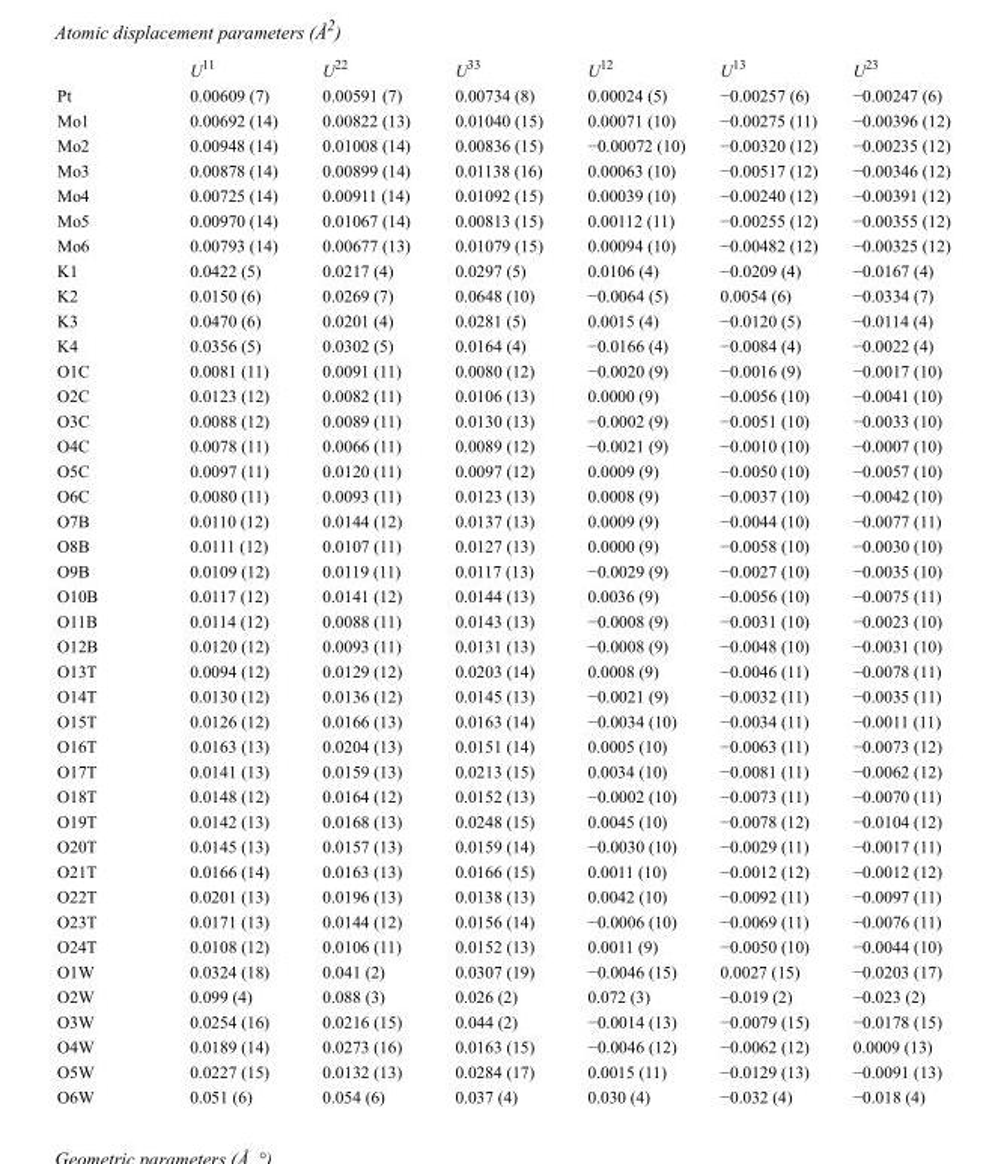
<table><thead><tr><td></td><td>U<sup>11</sup></td><td>U<sup>22</sup></td><td>U<sup>33</sup></td><td>U<sup>12</sup></td><td>U<sup>13</sup></td><td>U<sup>23</sup></td></tr></thead><tbody><tr><td>Pt</td><td>0.00609 (7)</td><td>0.00591 (7)</td><td>0.00734 (8)</td><td>0.00024 (5)</td><td>−0.00257 (6)</td><td>−0.00247 (6)</td></tr><tr><td>Mo1</td><td>0.00692 (14)</td><td>0.00822 (13)</td><td>0.01040 (15)</td><td>0.00071 (10)</td><td>−0.00275 (11)</td><td>−0.00396 (12)</td></tr><tr><td>Mo2</td><td>0.00948 (14)</td><td>0.01008 (14)</td><td>0.00836 (15)</td><td>−0.00072 (10)</td><td>−0.00320 (12)</td><td>−0.00235 (12)</td></tr><tr><td>Mo3</td><td>0.00878 (14)</td><td>0.00899 (14)</td><td>0.01138 (16)</td><td>0.00063 (10)</td><td>−0.00517 (12)</td><td>−0.00346 (12)</td></tr><tr><td>Mo4</td><td>0.00725 (14)</td><td>0.00911 (14)</td><td>0.01092 (15)</td><td>0.00039 (10)</td><td>−0.00240 (12)</td><td>−0.00391 (12)</td></tr><tr><td>Mo5</td><td>0.00970 (14)</td><td>0.01067 (14)</td><td>0.00813 (15)</td><td>0.00112 (11)</td><td>−0.00255 (12)</td><td>−0.00355 (12)</td></tr><tr><td>Mo6</td><td>0.00793 (14)</td><td>0.00677 (13)</td><td>0.01079 (15)</td><td>0.00094 (10)</td><td>−0.00482 (12)</td><td>−0.00325 (12)</td></tr><tr><td>K1</td><td>0.0422 (5)</td><td>0.0217 (4)</td><td>0.0297 (5)</td><td>0.0106 (4)</td><td>−0.0209 (4)</td><td>−0.0167 (4)</td></tr><tr><td>K2</td><td>0.0150 (6)</td><td>0.0269 (7)</td><td>0.0648 (10)</td><td>−0.0064 (5)</td><td>0.0054 (6)</td><td>−0.0334 (7)</td></tr><tr><td>K3</td><td>0.0470 (6)</td><td>0.0201 (4)</td><td>0.0281 (5)</td><td>0.0015 (4)</td><td>−0.0120 (5)</td><td>−0.0114 (4)</td></tr><tr><td>K4</td><td>0.0356 (5)</td><td>0.0302 (5)</td><td>0.0164 (4)</td><td>−0.0166 (4)</td><td>−0.0084 (4)</td><td>−0.0022 (4)</td></tr><tr><td>O1C</td><td>0.0081 (11)</td><td>0.0091 (11)</td><td>0.0080 (12)</td><td>−0.0020 (9)</td><td>−0.0016 (9)</td><td>−0.0017 (10)</td></tr><tr><td>O2C</td><td>0.0123 (12)</td><td>0.0082 (11)</td><td>0.0106 (13)</td><td>0.0000 (9)</td><td>−0.0056 (10)</td><td>−0.0041 (10)</td></tr><tr><td>O3C</td><td>0.0088 (12)</td><td>0.0089 (11)</td><td>0.0130 (13)</td><td>−0.0002 (9)</td><td>−0.0051 (10)</td><td>−0.0033 (10)</td></tr><tr><td>O4C</td><td>0.0078 (11)</td><td>0.0066 (11)</td><td>0.0089 (12)</td><td>−0.0021 (9)</td><td>−0.0010 (10)</td><td>−0.0007 (10)</td></tr><tr><td>O5C</td><td>0.0097 (11)</td><td>0.0120 (11)</td><td>0.0097 (12)</td><td>0.0009 (9)</td><td>−0.0050 (10)</td><td>−0.0057 (10)</td></tr><tr><td>O6C</td><td>0.0080 (11)</td><td>0.0093 (11)</td><td>0.0123 (13)</td><td>0.0008 (9)</td><td>−0.0037 (10)</td><td>−0.0042 (10)</td></tr><tr><td>O7B</td><td>0.0110 (12)</td><td>0.0144 (12)</td><td>0.0137 (13)</td><td>0.0009 (9)</td><td>−0.0044 (10)</td><td>−0.0077 (11)</td></tr><tr><td>O8B</td><td>0.0111 (12)</td><td>0.0107 (11)</td><td>0.0127 (13)</td><td>0.0000 (9)</td><td>−0.0058 (10)</td><td>−0.0030 (10)</td></tr><tr><td>O9B</td><td>0.0109 (12)</td><td>0.0119 (11)</td><td>0.0117 (13)</td><td>−0.0029 (9)</td><td>−0.0027 (10)</td><td>−0.0035 (10)</td></tr><tr><td>O10B</td><td>0.0117 (12)</td><td>0.0141 (12)</td><td>0.0144 (13)</td><td>0.0036 (9)</td><td>−0.0056 (10)</td><td>−0.0075 (11)</td></tr><tr><td>O11B</td><td>0.0114 (12)</td><td>0.0088 (11)</td><td>0.0143 (13)</td><td>−0.0008 (9)</td><td>−0.0031 (10)</td><td>−0.0023 (10)</td></tr><tr><td>O12B</td><td>0.0120 (12)</td><td>0.0093 (11)</td><td>0.0131 (13)</td><td>−0.0008 (9)</td><td>−0.0048 (10)</td><td>−0.0031 (10)</td></tr><tr><td>O13T</td><td>0.0094 (12)</td><td>0.0129 (12)</td><td>0.0203 (14)</td><td>0.0008 (9)</td><td>−0.0046 (11)</td><td>−0.0078 (11)</td></tr><tr><td>O14T</td><td>0.0130 (12)</td><td>0.0136 (12)</td><td>0.0145 (13)</td><td>−0.0021 (9)</td><td>−0.0032 (11)</td><td>−0.0035 (11)</td></tr><tr><td>O15T</td><td>0.0126 (12)</td><td>0.0166 (13)</td><td>0.0163 (14)</td><td>−0.0034 (10)</td><td>−0.0034 (11)</td><td>−0.0011 (11)</td></tr><tr><td>O16T</td><td>0.0163 (13)</td><td>0.0204 (13)</td><td>0.0151 (14)</td><td>0.0005 (10)</td><td>−0.0063 (11)</td><td>−0.0073 (12)</td></tr><tr><td>O17T</td><td>0.0141 (13)</td><td>0.0159 (13)</td><td>0.0213 (15)</td><td>0.0034 (10)</td><td>−0.0081 (11)</td><td>−0.0062 (12)</td></tr><tr><td>O18T</td><td>0.0148 (12)</td><td>0.0164 (12)</td><td>0.0152 (13)</td><td>−0.0002 (10)</td><td>−0.0073 (11)</td><td>−0.0070 (11)</td></tr><tr><td>O19T</td><td>0.0142 (13)</td><td>0.0168 (13)</td><td>0.0248 (15)</td><td>0.0045 (10)</td><td>−0.0078 (12)</td><td>−0.0104 (12)</td></tr><tr><td>O20T</td><td>0.0145 (13)</td><td>0.0157 (13)</td><td>0.0159 (14)</td><td>−0.0030 (10)</td><td>−0.0029 (11)</td><td>−0.0017 (11)</td></tr><tr><td>O21T</td><td>0.0166 (14)</td><td>0.0163 (13)</td><td>0.0166 (15)</td><td>0.0011 (10)</td><td>−0.0012 (12)</td><td>−0.0012 (12)</td></tr><tr><td>O22T</td><td>0.0201 (13)</td><td>0.0196 (13)</td><td>0.0138 (13)</td><td>0.0042 (10)</td><td>−0.0092 (11)</td><td>−0.0097 (11)</td></tr><tr><td>O23T</td><td>0.0171 (13)</td><td>0.0144 (12)</td><td>0.0156 (14)</td><td>−0.0006 (10)</td><td>−0.0069 (11)</td><td>−0.0076 (11)</td></tr><tr><td>O24T</td><td>0.0108 (12)</td><td>0.0106 (11)</td><td>0.0152 (13)</td><td>0.0011 (9)</td><td>−0.0050 (10)</td><td>−0.0044 (10)</td></tr><tr><td>O1W</td><td>0.0324 (18)</td><td>0.041 (2)</td><td>0.0307 (19)</td><td>−0.0046 (15)</td><td>0.0027 (15)</td><td>−0.0203 (17)</td></tr><tr><td>O2W</td><td>0.099 (4)</td><td>0.088 (3)</td><td>0.026 (2)</td><td>0.072 (3)</td><td>−0.019 (2)</td><td>−0.023 (2)</td></tr><tr><td>O3W</td><td>0.0254 (16)</td><td>0.0216 (15)</td><td>0.044 (2)</td><td>−0.0014 (13)</td><td>−0.0079 (15)</td><td>−0.0178 (15)</td></tr><tr><td>O4W</td><td>0.0189 (14)</td><td>0.0273 (16)</td><td>0.0163 (15)</td><td>−0.0046 (12)</td><td>−0.0062 (12)</td><td>0.0009 (13)</td></tr><tr><td>O5W</td><td>0.0227 (15)</td><td>0.0132 (13)</td><td>0.0284 (17)</td><td>0.0015 (11)</td><td>−0.0129 (13)</td><td>−0.0091 (13)</td></tr><tr><td>O6W</td><td>0.051 (6)</td><td>0.054 (6)</td><td>0.037 (4)</td><td>0.030 (4)</td><td>−0.032 (4)</td><td>−0.018 (4)</td></tr></tbody></table>